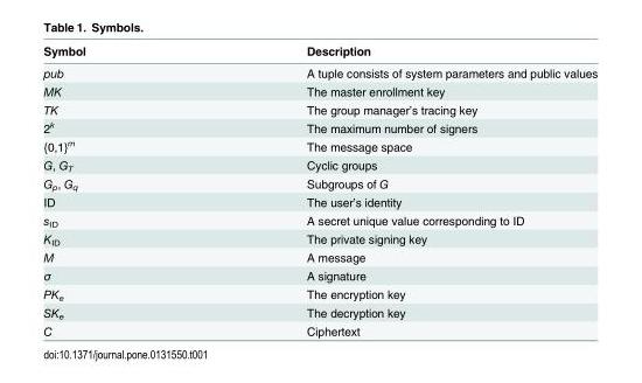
<table><thead><tr><td>Symbol</td><td>Description</td></tr></thead><tbody><tr><td>pub</td><td>A tuple consists of system parameters and public values</td></tr><tr><td>MK</td><td>The master enrollment key</td></tr><tr><td>TK</td><td>The group manager’s tracing key</td></tr><tr><td>2<sup>k</sup></td><td>The maximum number of signers</td></tr><tr><td>{0,1}<sup>m</sup></td><td>The message space</td></tr><tr><td>G, G<sub>T</sub></td><td>Cyclic groups</td></tr><tr><td>G<sub>p</sub>, G<sub>q</sub></td><td>Subgroups of G</td></tr><tr><td>ID</td><td>The user’s identity</td></tr><tr><td>s<sub>ID</sub></td><td>A secret unique value corresponding to ID</td></tr><tr><td>K<sub>ID</sub></td><td>The private signing key</td></tr><tr><td>M</td><td>A message</td></tr><tr><td>σ</td><td>A signature</td></tr><tr><td>PK<sub>e</sub></td><td>The encryption key</td></tr><tr><td>SK<sub>e</sub></td><td>The decryption key</td></tr><tr><td>C</td><td>Ciphertext</td></tr></tbody></table>